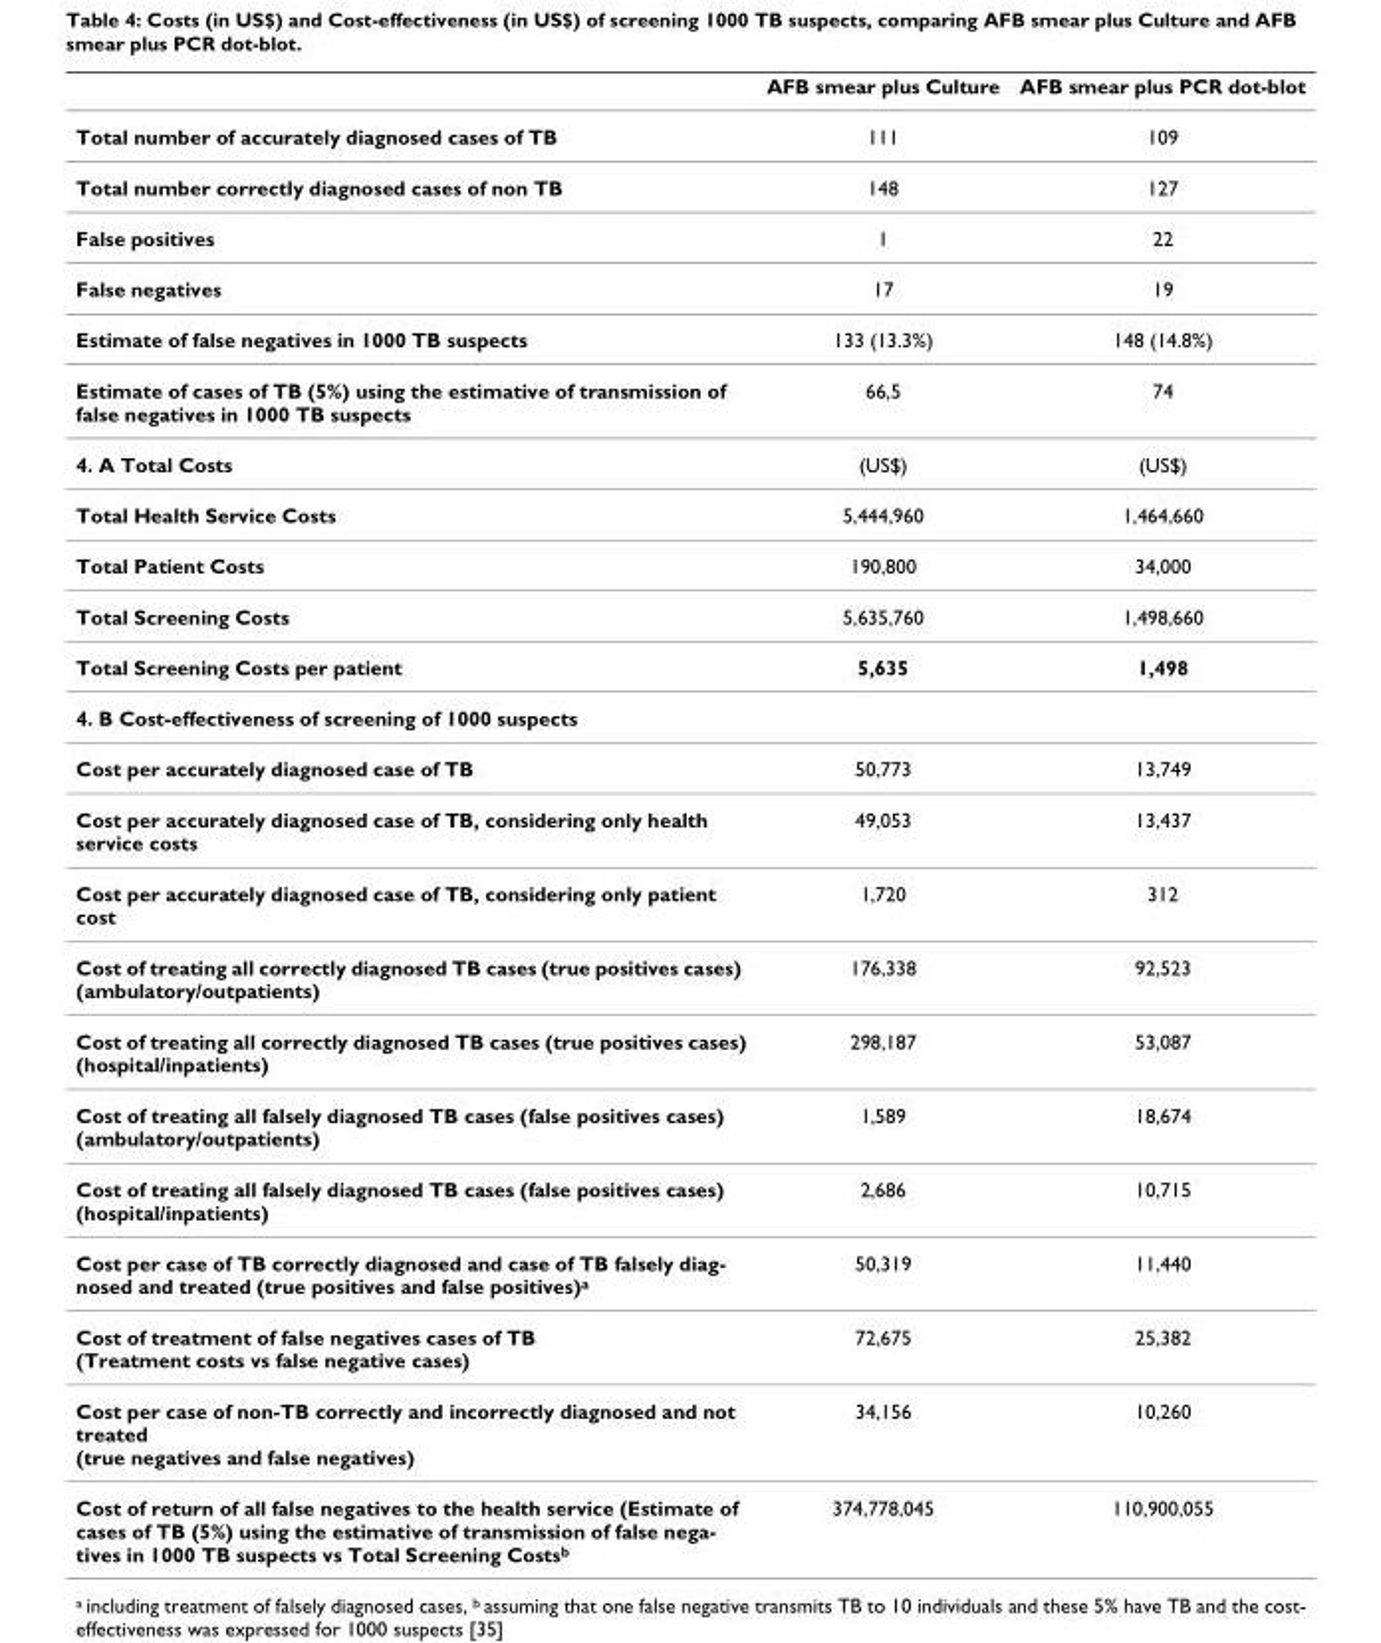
<table><thead><tr><td></td><td>AFB smear plus Culture</td><td>AFB smear plus PCR dot-blot</td></tr></thead><tbody><tr><td>Total number of accurately diagnosed cases of TB</td><td>111</td><td>109</td></tr><tr><td>Total number correctly diagnosed cases of non TB</td><td>148</td><td>127</td></tr><tr><td>False positives</td><td>1</td><td>22</td></tr><tr><td>False negatives</td><td>17</td><td>19</td></tr><tr><td>Estimate of false negatives in 1000 TB suspects</td><td>133 (13.3%)</td><td>148 (14.8%)</td></tr><tr><td>Estimate of cases of TB (5%) using the estimative of transmission of false negatives in 1000 TB suspects</td><td>66,5</td><td>74</td></tr><tr><td>4. A Total Costs</td><td>(US$)</td><td>(US$)</td></tr><tr><td>Total Health Service Costs</td><td>5,444,960</td><td>1,464,660</td></tr><tr><td>Total Patient Costs</td><td>190,800</td><td>34,000</td></tr><tr><td>Total Screening Costs</td><td>5,635,760</td><td>1,498,660</td></tr><tr><td>Total Screening Costs per patient</td><td>5,635</td><td>1,498</td></tr><tr><td colspan="3">4. B Cost-effectiveness of screening of 1000 suspects</td></tr><tr><td>Cost per accurately diagnosed case of TB</td><td>50,773</td><td>13,749</td></tr><tr><td>Cost per accurately diagnosed case of TB, considering only health service costs</td><td>49,053</td><td>13,437</td></tr><tr><td>Cost per accurately diagnosed case of TB, considering only patient cost</td><td>1,720</td><td>312</td></tr><tr><td>Cost of treating all correctly diagnosed TB cases (true positives cases) (ambulatory/outpatients)</td><td>176,338</td><td>92,523</td></tr><tr><td>Cost of treating all correctly diagnosed TB cases (true positives cases) (hospital/inpatients)</td><td>298,187</td><td>53,087</td></tr><tr><td>Cost of treating all falsely diagnosed TB cases (false positives cases) (ambulatory/outpatients)</td><td>1,589</td><td>18,674</td></tr><tr><td>Cost of treating all falsely diagnosed TB cases (false positives cases) (hospital/inpatients)</td><td>2,686</td><td>10,715</td></tr><tr><td>Cost per case of TB correctly diagnosed and case of TB falsely diag- nosed and treated (true positives and false positives)a</td><td>50,319</td><td>11,440</td></tr><tr><td>Cost of treatment of false negatives cases of TB (Treatment costs vs false negative cases)</td><td>72,675</td><td>25,382</td></tr><tr><td>Cost per case of non-TB correctly and incorrectly diagnosed and not treated (true negatives and false negatives)</td><td>34,156</td><td>10,260</td></tr><tr><td>Cost of return of all false negatives to the health service (Estimate of cases of TB (5%) using the estimative of transmission of false nega- tives in 1000 TB suspects vs Total Screening Costsb</td><td>374,778,045</td><td>110,900,055</td></tr></tbody></table>